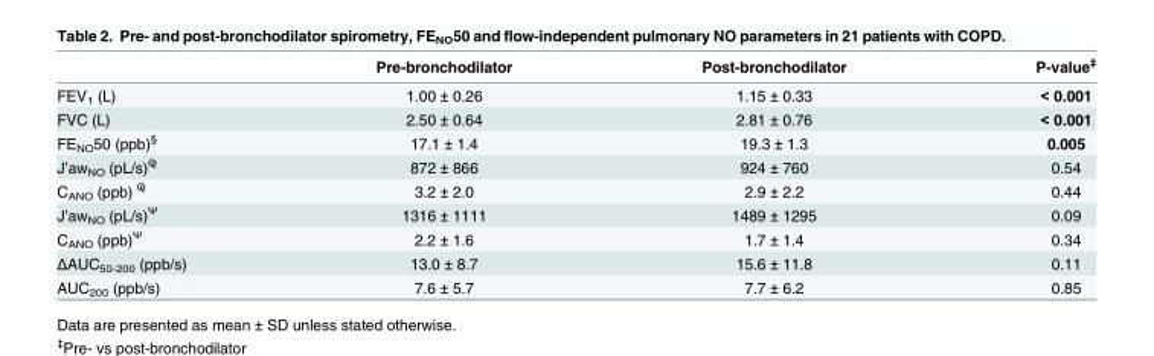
<table><thead><tr><td></td><td>Pre-bronchodilator</td><td>Post-bronchodilator</td><td>P-value<sup>‡</sup></td></tr></thead><tbody><tr><td>FEV<sub>1</sub> (L)</td><td>1.00 ± 0.26</td><td>1.15 ± 0.33</td><td>&lt; 0.001</td></tr><tr><td>FVC (L)</td><td>2.50 ± 0.64</td><td>2.81 ± 0.76</td><td>&lt; 0.001</td></tr><tr><td>FE<sub>NO</sub>50 (ppb)<sup>§</sup></td><td>17.1 ± 1.4</td><td>19.3 ± 1.3</td><td>0.005</td></tr><tr><td>J’aw<sub>NO</sub> (pL/s)<sup>Ҩ</sup></td><td>872 ± 866</td><td>924 ± 760</td><td>0.54</td></tr><tr><td>C<sub>ANO</sub> (ppb) <sup>Ҩ</sup></td><td>3.2 ± 2.0</td><td>2.9 ± 2.2</td><td>0.44</td></tr><tr><td>J’aw<sub>NO</sub> (pL/s)<sup>Ψ</sup></td><td>1316 ± 1111</td><td>1489 ± 1295</td><td>0.09</td></tr><tr><td>C<sub>ANO</sub> (ppb)<sup>Ψ</sup></td><td>2.2 ± 1.6</td><td>1.7 ± 1.4</td><td>0.34</td></tr><tr><td>ΔAUC<sub>50-200</sub> (ppb/s)</td><td>13.0 ± 8.7</td><td>15.6 ± 11.8</td><td>0.11</td></tr><tr><td>AUC<sub>200</sub> (ppb/s)</td><td>7.6 ± 5.7</td><td>7.7 ± 6.2</td><td>0.85</td></tr></tbody></table>